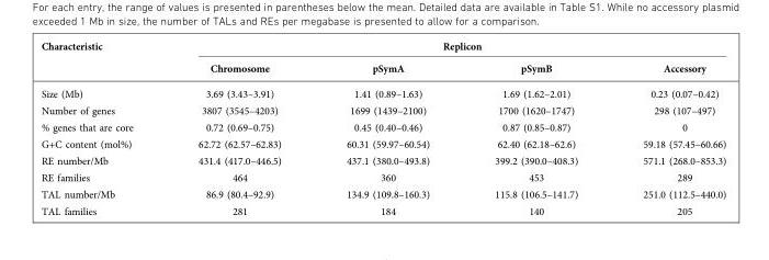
<table><thead><tr><td rowspan="2">Characteristic</td><td colspan="4">Replicon</td></tr><tr><td>Chromosome</td><td>pSymA</td><td>pSymB</td><td>Accessory</td></tr></thead><tbody><tr><td>Size (Mb)</td><td>3.69 (3.43–3.91)</td><td>1.41 (0.89–1.63)</td><td>1.69 (1.62–2.01)</td><td>0.23 (0.07–0.42)</td></tr><tr><td>Number of genes</td><td>3807 (3545–4203)</td><td>1699 (1439–2100)</td><td>1700 (1620–1747)</td><td>298 (107–497)</td></tr><tr><td>% genes that are core</td><td>0.72 (0.69–0.75)</td><td>0.45 (0.40–0.46)</td><td>0.87 (0.85–0.87)</td><td>0</td></tr><tr><td>G+C content (mol%)</td><td>62.72 (62.57–62.83)</td><td>60.31 (59.97–60.54)</td><td>62.40 (62.18–62.6)</td><td>59.18 (57.45–60.66)</td></tr><tr><td>RE number/Mb</td><td>431.4 (417.0–446.5)</td><td>437.1 (380.0–493.8)</td><td>399.2 (390.0–408.3)</td><td>571.1 (268.0–853.3)</td></tr><tr><td>RE families</td><td>464</td><td>360</td><td>453</td><td>289</td></tr><tr><td>TAL number/Mb</td><td>86.9 (80.4–92.9)</td><td>134.9 (109.8–160.3)</td><td>115.8 (106.5–141.7)</td><td>251.0 (112.5–440.0)</td></tr><tr><td>TAL families</td><td>281</td><td>184</td><td>140</td><td>205</td></tr></tbody></table>